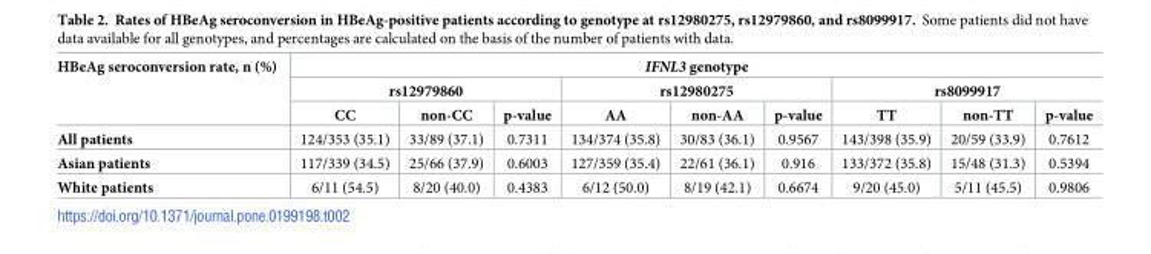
<table><thead><tr><td rowspan="3">HBeAg seroconversion rate, n (%)</td><td colspan="9">IFNL3 genotype</td></tr><tr><td colspan="3">rs12979860</td><td colspan="3">rs12980275</td><td colspan="3">rs8099917</td></tr><tr><td>CC</td><td>non-CC</td><td>p-value</td><td>AA</td><td>non-AA</td><td>p-value</td><td>TT</td><td>non-TT</td><td>p-value</td></tr></thead><tbody><tr><td>All patients</td><td>124/353 (35.1)</td><td>33/89 (37.1)</td><td>0.7311</td><td>134/374 (35.8)</td><td>30/83 (36.1)</td><td>0.9567</td><td>143/398 (35.9)</td><td>20/59 (33.9)</td><td>0.7612</td></tr><tr><td>Asian patients</td><td>117/339 (34.5)</td><td>25/66 (37.9)</td><td>0.6003</td><td>127/359 (35.4)</td><td>22/61 (36.1)</td><td>0.916</td><td>133/372 (35.8)</td><td>15/48 (31.3)</td><td>0.5394</td></tr><tr><td>White patients</td><td>6/11 (54.5)</td><td>8/20 (40.0)</td><td>0.4383</td><td>6/12 (50.0)</td><td>8/19 (42.1)</td><td>0.6674</td><td>9/20 (45.0)</td><td>5/11 (45.5)</td><td>0.9806</td></tr></tbody></table>